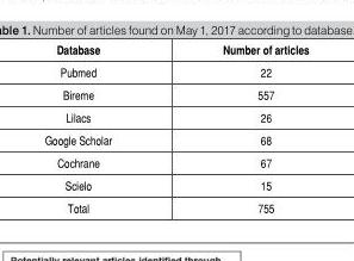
<table><thead><tr><td>Database</td><td>Number of articles</td></tr></thead><tbody><tr><td>Pubmed</td><td>22</td></tr><tr><td>Bireme</td><td>557</td></tr><tr><td>Lilacs</td><td>26</td></tr><tr><td>Google Scholar</td><td>68</td></tr><tr><td>Cochrane</td><td>67</td></tr><tr><td>Scielo</td><td>15</td></tr><tr><td>Total</td><td>755</td></tr></tbody></table>